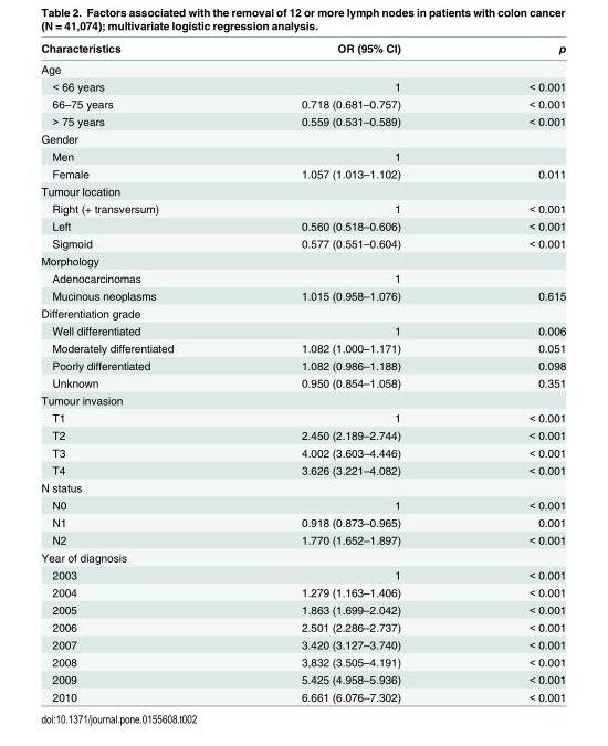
<table><thead><tr><td>Characteristics</td><td>OR (95% Cl)</td><td>p</td></tr></thead><tbody><tr><td colspan="3">Age</td></tr><tr><td>&lt; 66 years</td><td>1</td><td>&lt; 0.001</td></tr><tr><td>66–75 years</td><td>0.718 (0.681–0.757)</td><td>&lt; 0.001</td></tr><tr><td>&gt; 75 years</td><td>0.559 (0.531–0.589)</td><td>&lt; 0.001</td></tr><tr><td colspan="3">Gender</td></tr><tr><td>Men</td><td>1</td><td></td></tr><tr><td>Female</td><td>1.057 (1.013–1.102)</td><td>0.011</td></tr><tr><td colspan="3">Tumour location</td></tr><tr><td>Right (+ transversum)</td><td>1</td><td>&lt; 0.001</td></tr><tr><td>Left</td><td>0.560 (0.518–0.606)</td><td>&lt; 0.001</td></tr><tr><td>Sigmoid</td><td>0.577 (0.551–0.604)</td><td>&lt; 0.001</td></tr><tr><td colspan="3">Morphology</td></tr><tr><td>Adenocarcinomas</td><td>1</td><td></td></tr><tr><td>Mucinous neoplasms</td><td>1.015 (0.958–1.076)</td><td>0.615</td></tr><tr><td colspan="3">Differentiation grade</td></tr><tr><td>Well differentiated</td><td>1</td><td>0.006</td></tr><tr><td>Moderately differentiated</td><td>1.082 (1.000–1.171)</td><td>0.051</td></tr><tr><td>Poorly differentiated</td><td>1.082 (0.986–1.188)</td><td>0.098</td></tr><tr><td>Unknown</td><td>0.950 (0.854–1.058)</td><td>0.351</td></tr><tr><td colspan="3">Tumour invasion</td></tr><tr><td>T1</td><td>1</td><td>&lt; 0.001</td></tr><tr><td>T2</td><td>2.450 (2.189–2.744)</td><td>&lt; 0.001</td></tr><tr><td>T3</td><td>4.002 (3.603–4.446)</td><td>&lt; 0.001</td></tr><tr><td>T4</td><td>3.626 (3.221–4.082)</td><td>&lt; 0.001</td></tr><tr><td colspan="3">N status</td></tr><tr><td>N0</td><td>1</td><td>&lt; 0.001</td></tr><tr><td>N1</td><td>0.918 (0.873–0.965)</td><td>0.001</td></tr><tr><td>N2</td><td>1.770 (1.652–1.897)</td><td>&lt; 0.001</td></tr><tr><td colspan="3">Year of diagnosis</td></tr><tr><td>2003</td><td>1</td><td>&lt; 0.001</td></tr><tr><td>2004</td><td>1.279 (1.163–1.406)</td><td>&lt; 0.001</td></tr><tr><td>2005</td><td>1.863 (1.699–2.042)</td><td>&lt; 0.001</td></tr><tr><td>2006</td><td>2.501 (2.286–2.737)</td><td>&lt; 0.001</td></tr><tr><td>2007</td><td>3.420 (3.127–3.740)</td><td>&lt; 0.001</td></tr><tr><td>2008</td><td>3,832 (3.505–4.191)</td><td>&lt; 0.001</td></tr><tr><td>2009</td><td>5.425 (4.958–5.936)</td><td>&lt; 0.001</td></tr><tr><td>2010</td><td>6.661 (6.076–7.302)</td><td>&lt; 0.001</td></tr></tbody></table>